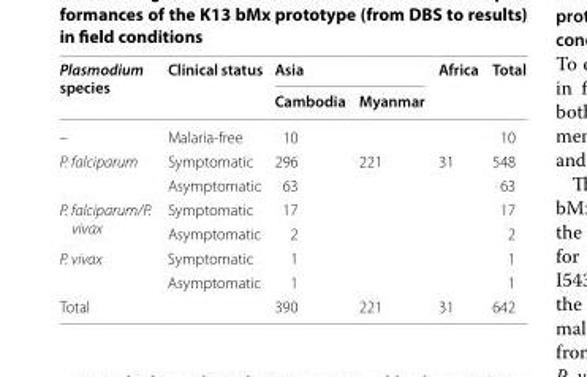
<table><thead><tr><td rowspan="2">Plasmodium species</td><td rowspan="2">Clinical status</td><td colspan="2">Asia</td><td rowspan="2">Africa</td><td rowspan="2">Total</td></tr><tr><td>Cambodia</td><td>Myanmar</td></tr></thead><tbody><tr><td>–</td><td>Malaria‑free</td><td>10</td><td></td><td></td><td>10</td></tr><tr><td rowspan="2">P. falciparum</td><td>Symptomatic</td><td>296</td><td>221</td><td>31</td><td>548</td></tr><tr><td>Asymptomatic</td><td>63</td><td></td><td></td><td>63</td></tr><tr><td rowspan="2">P. falciparum/P. vivax</td><td>Symptomatic</td><td>17</td><td></td><td></td><td>17</td></tr><tr><td>Asymptomatic</td><td>2</td><td></td><td></td><td>2</td></tr><tr><td rowspan="2">P. vivax</td><td>Symptomatic</td><td>1</td><td></td><td></td><td>1</td></tr><tr><td>Asymptomatic</td><td>1</td><td></td><td></td><td>1</td></tr><tr><td>Total</td><td></td><td>390</td><td>221</td><td>31</td><td>642</td></tr></tbody></table>